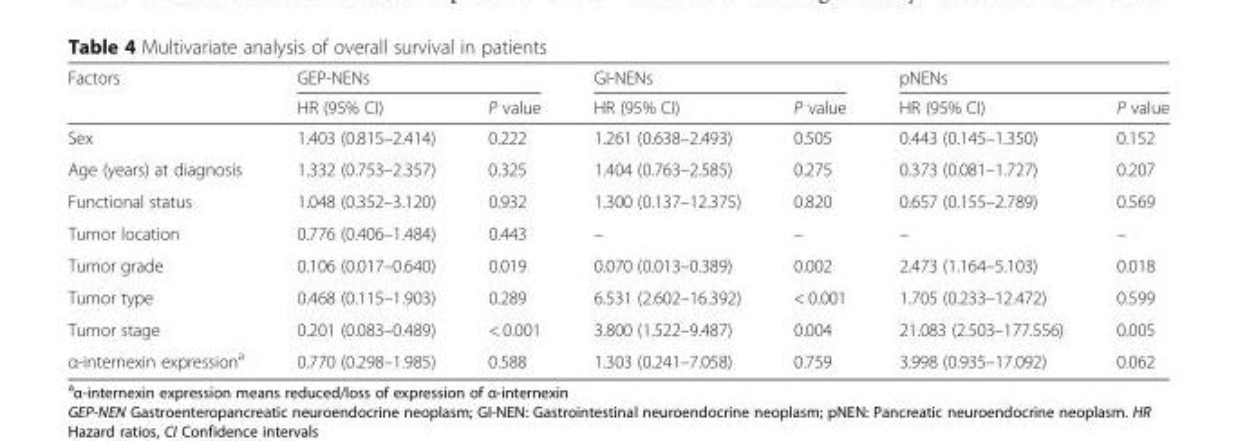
<table><thead><tr><td rowspan="2">Factors</td><td colspan="2">GEP-NENs</td><td colspan="2">GI-NENs</td><td colspan="2">pNENs</td></tr><tr><td>HR (95% CI)</td><td>P value</td><td>HR (95% CI)</td><td>P value</td><td>HR (95% CI)</td><td>P value</td></tr></thead><tbody><tr><td>Sex</td><td>1.403 (0.815–2.414)</td><td>0.222</td><td>1.261 (0.638–2.493)</td><td>0.505</td><td>0.443 (0.145–1.350)</td><td>0.152</td></tr><tr><td>Age (years) at diagnosis</td><td>1.332 (0.753–2.357)</td><td>0.325</td><td>1.404 (0.763–2.585)</td><td>0.275</td><td>0.373 (0.081–1.727)</td><td>0.207</td></tr><tr><td>Functional status</td><td>1.048 (0.352–3.120)</td><td>0.932</td><td>1.300 (0.137–12.375)</td><td>0.820</td><td>0.657 (0.155–2.789)</td><td>0.569</td></tr><tr><td>Tumor location</td><td>0.776 (0.406–1.484)</td><td>0.443</td><td>–</td><td>–</td><td>–</td><td>–</td></tr><tr><td>Tumor grade</td><td>0.106 (0.017–0.640)</td><td>0.019</td><td>0.070 (0.013–0.389)</td><td>0.002</td><td>2.473 (1.164–5.103)</td><td>0.018</td></tr><tr><td>Tumor type</td><td>0.468 (0.115–1.903)</td><td>0.289</td><td>6.531 (2.602–16.392)</td><td>&lt; 0.001</td><td>1.705 (0.233–12.472)</td><td>0.599</td></tr><tr><td>Tumor stage</td><td>0.201 (0.083–0.489)</td><td>&lt; 0.001</td><td>3.800 (1.522–9.487)</td><td>0.004</td><td>21.083 (2.503–177.556)</td><td>0.005</td></tr><tr><td>α-internexin expression<sup>a</sup></td><td>0.770 (0.298–1.985)</td><td>0.588</td><td>1.303 (0.241–7.058)</td><td>0.759</td><td>3.998 (0.935–17.092)</td><td>0.062</td></tr></tbody></table>